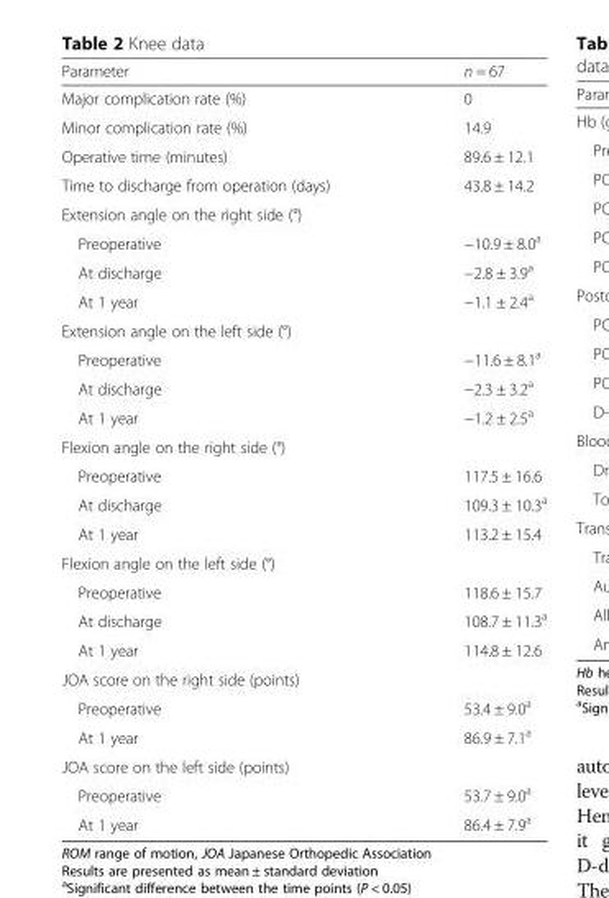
<table><thead><tr><td>Parameter</td><td>n = 67</td></tr></thead><tbody><tr><td>Major complication rate (%)</td><td>0</td></tr><tr><td>Minor complication rate (%)</td><td>14.9</td></tr><tr><td>Operative time (minutes)</td><td>89.6 ± 12.1</td></tr><tr><td>Time to discharge from operation (days)</td><td>43.8 ± 14.2</td></tr><tr><td colspan="2">Extension angle on the right side (°)</td></tr><tr><td>Preoperative</td><td>−10.9 ± 8.0<sup>a</sup></td></tr><tr><td>At discharge</td><td>−2.8 ± 3.9<sup>a</sup></td></tr><tr><td>At 1 year</td><td>−1.1 ± 2.4<sup>a</sup></td></tr><tr><td colspan="2">Extension angle on the left side (°)</td></tr><tr><td>Preoperative</td><td>−11.6 ± 8.1<sup>a</sup></td></tr><tr><td>At discharge</td><td>−2.3 ± 3.2<sup>a</sup></td></tr><tr><td>At 1 year</td><td>−1.2 ± 2.5<sup>a</sup></td></tr><tr><td colspan="2">Flexion angle on the right side (°)</td></tr><tr><td>Preoperative</td><td>117.5 ± 16.6</td></tr><tr><td>At discharge</td><td>109.3 ± 10.3<sup>a</sup></td></tr><tr><td>At 1 year</td><td>113.2 ± 15.4</td></tr><tr><td colspan="2">Flexion angle on the left side (°)</td></tr><tr><td>Preoperative</td><td>118.6 ± 15.7</td></tr><tr><td>At discharge</td><td>108.7 ± 11.3<sup>a</sup></td></tr><tr><td>At 1 year</td><td>114.8 ± 12.6</td></tr><tr><td colspan="2">JOA score on the right side (points)</td></tr><tr><td>Preoperative</td><td>53.4 ± 9.0<sup>a</sup></td></tr><tr><td>At 1 year</td><td>86.9 ± 7.1<sup>a</sup></td></tr><tr><td colspan="2">JOA score on the left side (points)</td></tr><tr><td>Preoperative</td><td>53.7 ± 9.0<sup>a</sup></td></tr><tr><td>At 1 year</td><td>86.4 ± 7.9<sup>a</sup></td></tr></tbody></table>